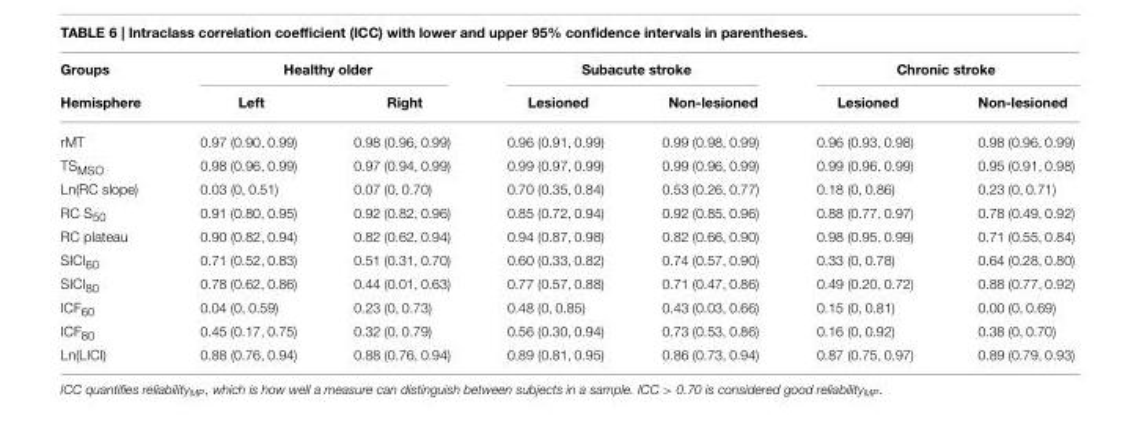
<table><thead><tr><td rowspan="2">Groups Hemisphere</td><td colspan="2">Healthy older</td><td colspan="2">Subacute stroke</td><td colspan="2">Chronic stroke</td></tr><tr><td>Left</td><td>Right</td><td>Lesioned</td><td>Non-lesioned</td><td>Lesioned</td><td>Non-lesioned</td></tr></thead><tbody><tr><td>rMT</td><td>0.97 (0.90, 0.99)</td><td>0.98 (0.96, 0.99)</td><td>0.96 (0.91, 0.99)</td><td>0.99 (0.98, 0.99)</td><td>0.96 (0.93, 0.98)</td><td>0.98 (0.96, 0.99)</td></tr><tr><td>TS<sub>MSO</sub></td><td>0.98 (0.96, 0.99)</td><td>0.97 (0.94, 0.99)</td><td>0.99 (0.97, 0.99)</td><td>0.99 (0.96, 0.99)</td><td>0.99 (0.96, 0.99)</td><td>0.95 (0.91, 0.98)</td></tr><tr><td>Ln(RC slope)</td><td>0.03 (0, 0.51)</td><td>0.07 (0, 0.70)</td><td>0.70 (0.35, 0.84)</td><td>0.53 (0.26, 0.77)</td><td>0.18 (0, 0.86)</td><td>0.23 (0, 0.71)</td></tr><tr><td>RC S<sub>50</sub></td><td>0.91 (0.80, 0.95)</td><td>0.92 (0.82, 0.96)</td><td>0.85 (0.72, 0.94)</td><td>0.92 (0.85, 0.96)</td><td>0.88 (0.77, 0.97)</td><td>0.78 (0.49, 0.92)</td></tr><tr><td>RC plateau</td><td>0.90 (0.82, 0.94)</td><td>0.82 (0.62, 0.94)</td><td>0.94 (0.87, 0.98)</td><td>0.82 (0.66, 0.90)</td><td>0.98 (0.95, 0.99)</td><td>0.71 (0.55, 0.84)</td></tr><tr><td>SICI<sub>60</sub></td><td>0.71 (0.52, 0.83)</td><td>0.51 (0.31, 0.70)</td><td>0.60 (0.33, 0.82)</td><td>0.74 (0.57, 0.90)</td><td>0.33 (0, 0.78)</td><td>0.64 (0.28, 0.80)</td></tr><tr><td>SICI<sub>80</sub></td><td>0.78 (0.62, 0.86)</td><td>0.44 (0.01, 0.63)</td><td>0.77 (0.57, 0.88)</td><td>0.71 (0.47, 0.86)</td><td>0.49 (0.20, 0.72)</td><td>0.88 (0.77, 0.92)</td></tr><tr><td>ICF<sub>60</sub></td><td>0.04 (0, 0.59)</td><td>0.23 (0, 0.73)</td><td>0.48 (0, 0.85)</td><td>0.43 (0.03, 0.66)</td><td>0.15 (0, 0.81)</td><td>0.00 (0, 0.69)</td></tr><tr><td>ICF<sub>80</sub></td><td>0.45 (0.17, 0.75)</td><td>0.32 (0, 0.79)</td><td>0.56 (0.30, 0.94)</td><td>0.73 (0.53, 0.86)</td><td>0.16 (0, 0.92)</td><td>0.38 (0, 0.70)</td></tr><tr><td>Ln(LICI)</td><td>0.88 (0.76, 0.94)</td><td>0.88 (0.76, 0.94)</td><td>0.89 (0.81, 0.95)</td><td>0.86 (0.73, 0.94)</td><td>0.87 (0.75, 0.97)</td><td>0.89 (0.79, 0.93)</td></tr></tbody></table>